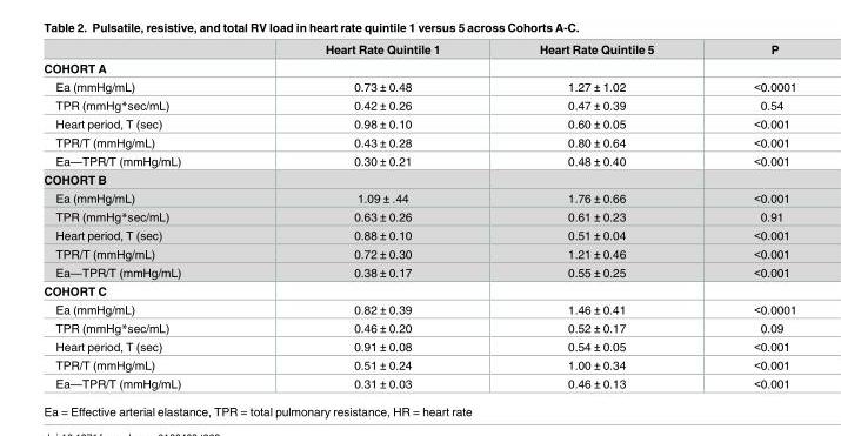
<table><thead><tr><td></td><td>Heart Rate Quintile 1</td><td>Heart Rate Quintile 5</td><td>P</td></tr></thead><tbody><tr><td colspan="4">COHORT A</td></tr><tr><td>Ea (mmHg/mL)</td><td>0.73 ± 0.48</td><td>1.27 ± 1.02</td><td>&lt;0.0001</td></tr><tr><td>TPR (mmHg*sec/mL)</td><td>0.42 ± 0.26</td><td>0.47 ± 0.39</td><td>0.54</td></tr><tr><td>Heart period, T (sec)</td><td>0.98 ± 0.10</td><td>0.60 ± 0.05</td><td>&lt;0.001</td></tr><tr><td>TPR/T (mmHg/mL)</td><td>0.43 ± 0.28</td><td>0.80 ± 0.64</td><td>&lt;0.001</td></tr><tr><td>Ea—TPR/T (mmHg/mL)</td><td>0.30 ± 0.21</td><td>0.48 ± 0.40</td><td>&lt;0.001</td></tr><tr><td colspan="4">COHORT B</td></tr><tr><td>Ea (mmHg/mL)</td><td>1.09 ± .44</td><td>1.76 ± 0.66</td><td>&lt;0.001</td></tr><tr><td>TPR (mmHg*sec/mL)</td><td>0.63 ± 0.26</td><td>0.61 ± 0.23</td><td>0.91</td></tr><tr><td>Heart period, T (sec)</td><td>0.88 ± 0.10</td><td>0.51 ± 0.04</td><td>&lt;0.001</td></tr><tr><td>TPR/T (mmHg/mL)</td><td>0.72 ± 0.30</td><td>1.21 ± 0.46</td><td>&lt;0.001</td></tr><tr><td>Ea—TPR/T (mmHg/mL)</td><td>0.38 ± 0.17</td><td>0.55 ± 0.25</td><td>&lt;0.001</td></tr><tr><td colspan="4">COHORT C</td></tr><tr><td>Ea (mmHg/mL)</td><td>0.82 ± 0.39</td><td>1.46 ± 0.41</td><td>&lt;0.0001</td></tr><tr><td>TPR (mmHg*sec/mL)</td><td>0.46 ± 0.20</td><td>0.52 ± 0.17</td><td>0.09</td></tr><tr><td>Heart period, T (sec)</td><td>0.91 ± 0.08</td><td>0.54 ± 0.05</td><td>&lt;0.001</td></tr><tr><td>TPR/T (mmHg/mL)</td><td>0.51 ± 0.24</td><td>1.00 ± 0.34</td><td>&lt;0.001</td></tr><tr><td>Ea—TPR/T (mmHg/mL)</td><td>0.31 ± 0.03</td><td>0.46 ± 0.13</td><td>&lt;0.001</td></tr></tbody></table>